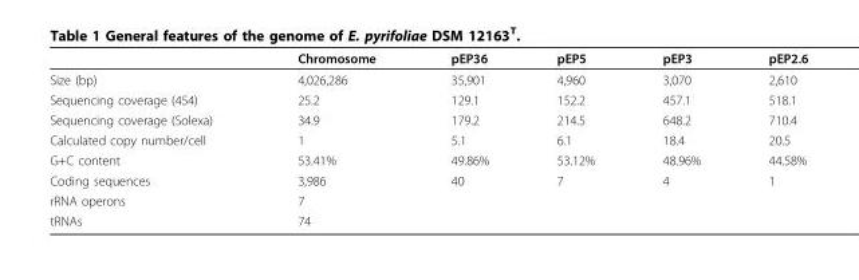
<table><thead><tr><td></td><td>Chromosome</td><td>pEP36</td><td>pEP5</td><td>pEP3</td><td>pEP2.6</td></tr></thead><tbody><tr><td>Size (bp)</td><td>4,026,286</td><td>35,901</td><td>4,960</td><td>3,070</td><td>2,610</td></tr><tr><td>Sequencing coverage (454)</td><td>25.2</td><td>129.1</td><td>152.2</td><td>457.1</td><td>518.1</td></tr><tr><td>Sequencing coverage (Solexa)</td><td>34.9</td><td>179.2</td><td>214.5</td><td>648.2</td><td>710.4</td></tr><tr><td>Calculated copy number/cell</td><td>1</td><td>5.1</td><td>6.1</td><td>18.4</td><td>20.5</td></tr><tr><td>G+C content</td><td>53.41%</td><td>49.86%</td><td>53.12%</td><td>48.96%</td><td>44.58%</td></tr><tr><td>Coding sequences</td><td>3,986</td><td>40</td><td>7</td><td>4</td><td>1</td></tr><tr><td>rRNA operons</td><td>7</td><td></td><td></td><td></td><td></td></tr><tr><td>tRNAs</td><td>74</td><td></td><td></td><td></td><td></td></tr></tbody></table>